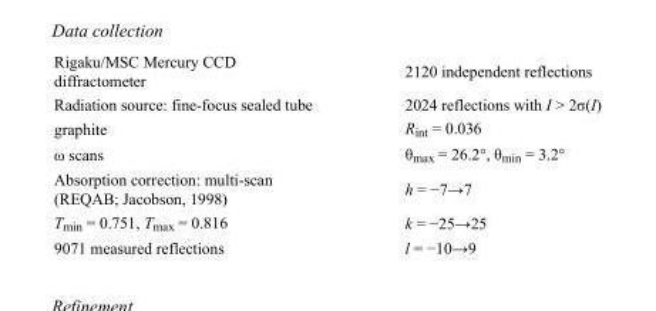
<table><tbody><tr><td>Rigaku/MSC Mercury CCD diffractometer</td><td>2120 independent reflections</td></tr><tr><td>Radiation source: fine-focus sealed tube</td><td>2024 reflections with I &gt; 2σ(I)</td></tr><tr><td>graphite</td><td>R<sub>int</sub> = 0.036</td></tr><tr><td>ω scans</td><td>θ<sub>max</sub> = 26.2°, θ<sub>min</sub> = 3.2°</td></tr><tr><td>Absorption correction: multi-scan (REQAB; Jacobson, 1998)</td><td>h = −7→7</td></tr><tr><td>T<sub>min</sub> = 0.751, T<sub>max</sub> = 0.816</td><td>k = −25→25</td></tr><tr><td>9071 measured reflections</td><td>l = −10→9</td></tr></tbody></table>